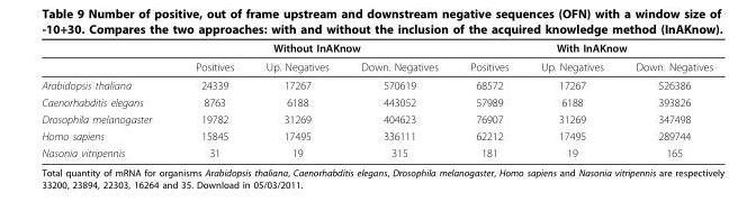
<table><thead><tr><td rowspan="2"></td><td colspan="3">Without InAKnow</td><td colspan="3">With InAKnow</td></tr><tr><td>Positives</td><td>Up. Negatives</td><td>Down. Negatives</td><td>Positives</td><td>Up. Negatives</td><td>Down. Negatives</td></tr></thead><tbody><tr><td>Arabidopsis thaliana</td><td>24339</td><td>17267</td><td>570619</td><td>68572</td><td>17267</td><td>526386</td></tr><tr><td>Caenorhabditis elegans</td><td>8763</td><td>6188</td><td>443052</td><td>57989</td><td>6188</td><td>393826</td></tr><tr><td>Drosophila melanogaster</td><td>19782</td><td>31269</td><td>404623</td><td>76907</td><td>31269</td><td>347498</td></tr><tr><td>Homo sapiens</td><td>15845</td><td>17495</td><td>336111</td><td>62212</td><td>17495</td><td>289744</td></tr><tr><td>Nasonia vitripennis</td><td>31</td><td>19</td><td>315</td><td>181</td><td>19</td><td>165</td></tr></tbody></table>